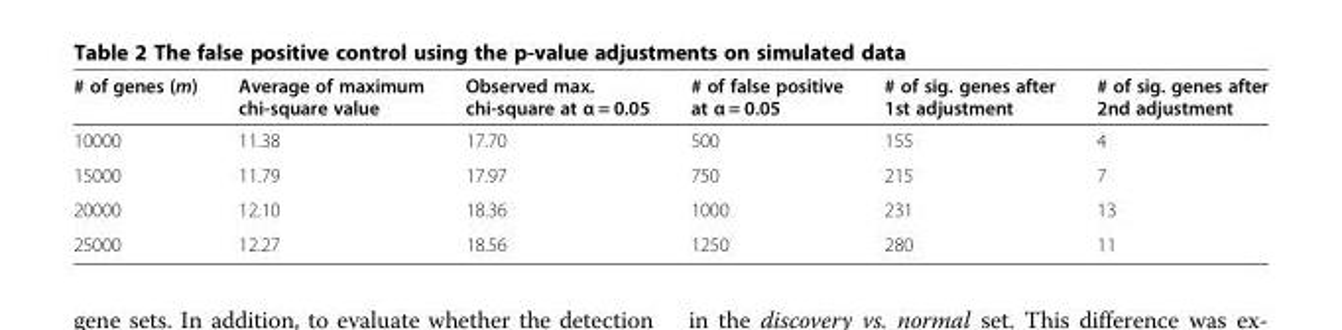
<table><thead><tr><td># of genes (m)</td><td>Average of maximum chi-square value</td><td>Observed max. chi-square at α = 0.05</td><td># of false positive at α = 0.05</td><td># of sig. genes after 1st adjustment</td><td># of sig. genes after 2nd adjustment</td></tr></thead><tbody><tr><td>10000</td><td>11.38</td><td>17.70</td><td>500</td><td>155</td><td>4</td></tr><tr><td>15000</td><td>11.79</td><td>17.97</td><td>750</td><td>215</td><td>7</td></tr><tr><td>20000</td><td>12.10</td><td>18.36</td><td>1000</td><td>231</td><td>13</td></tr><tr><td>25000</td><td>12.27</td><td>18.56</td><td>1250</td><td>280</td><td>11</td></tr></tbody></table>